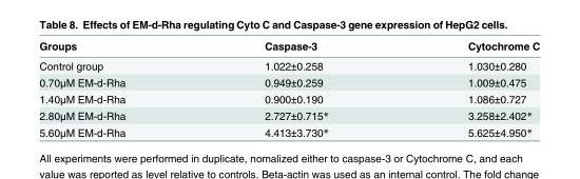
<table><thead><tr><td>Groups</td><td>Caspase-3</td><td>Cytochrome C</td></tr></thead><tbody><tr><td>Control group</td><td>1.022±0.258</td><td>1.030±0.280</td></tr><tr><td>0.70μM EM-d-Rha</td><td>0.949±0.259</td><td>1.009±0.475</td></tr><tr><td>1.40μM EM-d-Rha</td><td>0.900±0.190</td><td>1.086±0.727</td></tr><tr><td>2.80μM EM-d-Rha</td><td>2.727±0.715*</td><td>3.258±2.402*</td></tr><tr><td>5.60μM EM-d-Rha</td><td>4.413±3.730*</td><td>5.625±4.950*</td></tr></tbody></table>